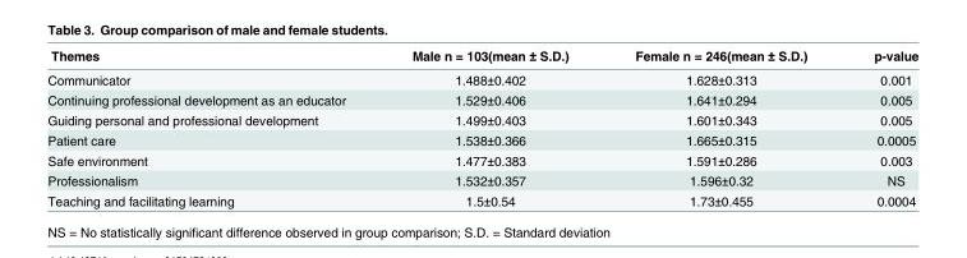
<table><thead><tr><td>Themes</td><td>Male n = 103(mean ± S.D.)</td><td>Female n = 246(mean ± S.D.)</td><td>p-value</td></tr></thead><tbody><tr><td>Communicator</td><td>1.488±0.402</td><td>1.628±0.313</td><td>0.001</td></tr><tr><td>Continuing professional development as an educator</td><td>1.529±0.406</td><td>1.641±0.294</td><td>0.005</td></tr><tr><td>Guiding personal and professional development</td><td>1.499±0.403</td><td>1.601±0.343</td><td>0.005</td></tr><tr><td>Patient care</td><td>1.538±0.366</td><td>1.665±0.315</td><td>0.0005</td></tr><tr><td>Safe environment</td><td>1.477±0.383</td><td>1.591±0.286</td><td>0.003</td></tr><tr><td>Professionalism</td><td>1.532±0.357</td><td>1.596±0.32</td><td>NS</td></tr><tr><td>Teaching and facilitating learning</td><td>1.5±0.54</td><td>1.73±0.455</td><td>0.0004</td></tr></tbody></table>